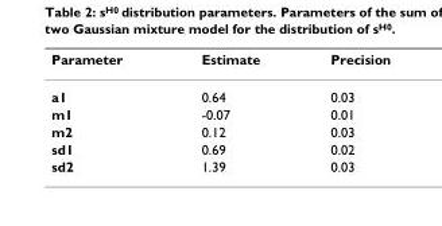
<table><thead><tr><td>Parameter</td><td>Estimate</td><td>Precision</td></tr></thead><tbody><tr><td>a1</td><td>0.64</td><td>0.03</td></tr><tr><td>m1</td><td>-0.07</td><td>0.01</td></tr><tr><td>m2</td><td>0.12</td><td>0.03</td></tr><tr><td>sd1</td><td>0.69</td><td>0.02</td></tr><tr><td>sd2</td><td>1.39</td><td>0.03</td></tr></tbody></table>